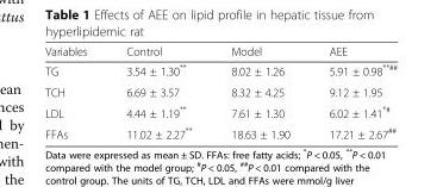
<table><thead><tr><td>Variables</td><td>Control</td><td>Model</td><td>AEE</td></tr></thead><tbody><tr><td>TG</td><td>3.54 ± 1.30**</td><td>8.02 ± 1.26</td><td>5.91 ± 0.98<sup>**##</sup></td></tr><tr><td>TCH</td><td>6.69 ± 3.57</td><td>8.32 ± 4.25</td><td>9.12 ± 1.95</td></tr><tr><td>LDL</td><td>4.44 ± 1.19**</td><td>7.61 ± 1.30</td><td>6.02 ± 1.41<sup>*#</sup></td></tr><tr><td>FFAs</td><td>11.02 ± 2.27**</td><td>18.63 ± 1.90</td><td>17.21 ± 2.67<sup>##</sup></td></tr></tbody></table>